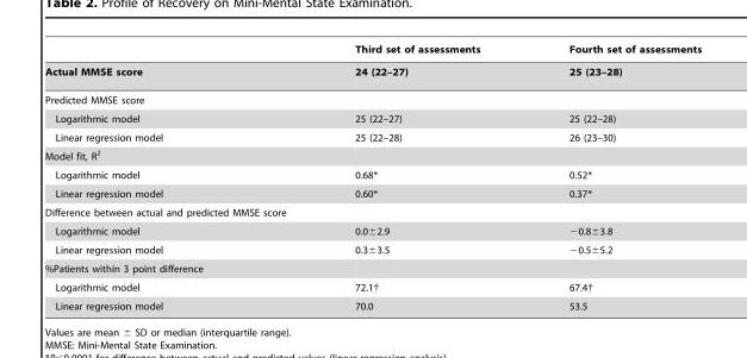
<table><thead><tr><td></td><td>Third set of assessments</td><td>Fourth set of assessments</td></tr></thead><tbody><tr><td>Actual MMSE score</td><td>24 (22–27)</td><td>25 (23–28)</td></tr><tr><td colspan="3">Predicted MMSE score</td></tr><tr><td>Logarithmic model</td><td>25 (22–27)</td><td>25 (22–28)</td></tr><tr><td>Linear regression model</td><td>25 (22–28)</td><td>26 (23–30)</td></tr><tr><td colspan="3">Model fit, R<sup>2</sup></td></tr><tr><td>Logarithmic model</td><td>0.68*</td><td>0.52*</td></tr><tr><td>Linear regression model</td><td>0.60*</td><td>0.37*</td></tr><tr><td colspan="3">Difference between actual and predicted MMSE score</td></tr><tr><td>Logarithmic model</td><td>0.0±2.9</td><td>−0.8±3.8</td></tr><tr><td>Linear regression model</td><td>0.3±3.5</td><td>−0.5±5.2</td></tr><tr><td colspan="3">%Patients within 3 point difference</td></tr><tr><td>Logarithmic model</td><td>72.1†</td><td>67.4†</td></tr><tr><td>Linear regression model</td><td>70.0</td><td>53.5</td></tr></tbody></table>